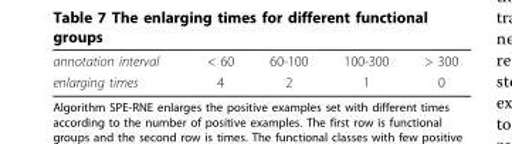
<table><tbody><tr><td>annotation interval</td><td>&lt; 60</td><td>60-100</td><td>100-300</td><td>&gt; 300</td></tr><tr><td>enlarging times</td><td>4</td><td>2</td><td>1</td><td>0</td></tr></tbody></table>